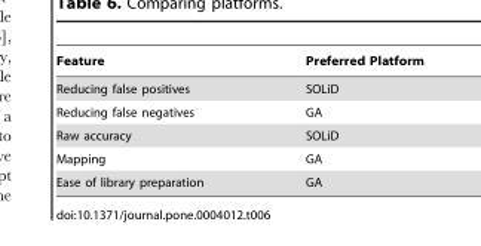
<table><thead><tr><td>Feature</td><td>Preferred Platform</td></tr></thead><tbody><tr><td>Reducing false positives</td><td>SOLiD</td></tr><tr><td>Reducing false negatives</td><td>GA</td></tr><tr><td>Raw accuracy</td><td>SOLiD</td></tr><tr><td>Mapping</td><td>GA</td></tr><tr><td>Ease of library preparation</td><td>GA</td></tr></tbody></table>